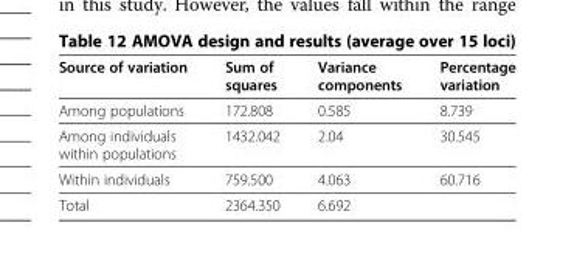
<table><thead><tr><td>Source of variation</td><td>Sum of squares</td><td>Variance components</td><td>Percentage variation</td></tr></thead><tbody><tr><td>Among populations</td><td>172.808</td><td>0.585</td><td>8.739</td></tr><tr><td>Among individuals within populations</td><td>1432.042</td><td>2.04</td><td>30.545</td></tr><tr><td>Within individuals</td><td>759.500</td><td>4.063</td><td>60.716</td></tr><tr><td>Total</td><td>2364.350</td><td>6.692</td><td></td></tr></tbody></table>